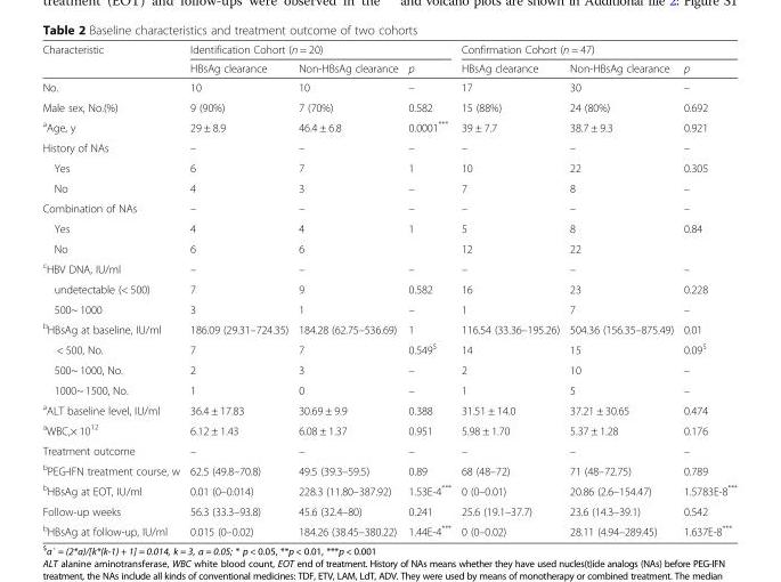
<table><thead><tr><td rowspan="2">Characteristic</td><td colspan="3">Identification Cohort (n = 20)</td><td colspan="3">Confirmation Cohort (n = 47)</td></tr><tr><td>HBsAg clearance</td><td>Non-HBsAg clearance</td><td>p</td><td>HBsAg clearance</td><td>Non-HBsAg clearance</td><td>p</td></tr></thead><tbody><tr><td>No.</td><td>10</td><td>10</td><td>–</td><td>17</td><td>30</td><td>–</td></tr><tr><td>Male sex, No.(%)</td><td>9 (90%)</td><td>7 (70%)</td><td>0.582</td><td>15 (88%)</td><td>24 (80%)</td><td>0.692</td></tr><tr><td><sup>a</sup>Age, y</td><td>29 ± 8.9</td><td>46.4 ± 6.8</td><td>0.0001***</td><td>39 ± 7.7</td><td>38.7 ± 9.3</td><td>0.921</td></tr><tr><td>History of NAs</td><td>–</td><td>–</td><td>–</td><td>–</td><td>–</td><td>–</td></tr><tr><td>Yes</td><td>6</td><td>7</td><td>1</td><td>10</td><td>22</td><td>0.305</td></tr><tr><td>No</td><td>4</td><td>3</td><td>–</td><td>7</td><td>8</td><td>–</td></tr><tr><td>Combination of NAs</td><td>–</td><td>–</td><td>–</td><td>–</td><td>–</td><td>–</td></tr><tr><td>Yes</td><td>4</td><td>4</td><td>1</td><td>5</td><td>8</td><td>0.84</td></tr><tr><td>No</td><td>6</td><td>6</td><td></td><td>12</td><td>22</td><td></td></tr><tr><td><sup>c</sup>HBV DNA, IU/ml</td><td>–</td><td>–</td><td>–</td><td>–</td><td>–</td><td>–</td></tr><tr><td>undetectable (&lt; 500)</td><td>7</td><td>9</td><td>0.582</td><td>16</td><td>23</td><td>0.228</td></tr><tr><td>500~ 1000</td><td>3</td><td>1</td><td>–</td><td>1</td><td>7</td><td>–</td></tr><tr><td><sup>b</sup>HBsAg at baseline, IU/ml</td><td>186.09 (29.31–724.35)</td><td>184.28 (62.75–536.69)</td><td>1</td><td>116.54 (33.36–195.26)</td><td>504.36 (156.35–875.49)</td><td>0.01</td></tr><tr><td>&lt; 500, No.</td><td>7</td><td>7</td><td>0.549<sup>$</sup></td><td>14</td><td>15</td><td>0.09<sup>$</sup></td></tr><tr><td>500~ 1000, No.</td><td>2</td><td>3</td><td>–</td><td>2</td><td>10</td><td>–</td></tr><tr><td>1000~ 1500, No.</td><td>1</td><td>0</td><td>–</td><td>1</td><td>5</td><td>–</td></tr><tr><td><sup>a</sup>ALT baseline level, IU/ml</td><td>36.4 ± 17.83</td><td>30.69 ± 9.9</td><td>0.388</td><td>31.51 ± 14.0</td><td>37.21 ± 30.65</td><td>0.474</td></tr><tr><td><sup>a</sup>WBC,× 10<sup>12</sup></td><td>6.12 ± 1.43</td><td>6.08 ± 1.37</td><td>0.951</td><td>5.98 ± 1.70</td><td>5.37 ± 1.28</td><td>0.176</td></tr><tr><td>Treatment outcome</td><td>–</td><td>–</td><td>–</td><td>–</td><td>–</td><td>–</td></tr><tr><td><sup>b</sup>PEG-IFN treatment course, w</td><td>62.5 (49.8–70.8)</td><td>49.5 (39.3–59.5)</td><td>0.89</td><td>68 (48–72)</td><td>71 (48–72.75)</td><td>0.789</td></tr><tr><td><sup>b</sup>HBsAg at EOT, IU/ml</td><td>0.01 (0–0.014)</td><td>228.3 (11.80–387.92)</td><td>1.53E-4***</td><td>0 (0–0.01)</td><td>20.86 (2.6–154.47)</td><td>1.5783E-8***</td></tr><tr><td>Follow-up weeks</td><td>56.3 (33.3–93.8)</td><td>45.6 (32.4–80)</td><td>0.241</td><td>25.6 (19.1–37.7)</td><td>23.6 (14.3–39.1)</td><td>0.542</td></tr><tr><td><sup>b</sup>HBsAg at follow-up, IU/ml</td><td>0.015 (0–0.02)</td><td>184.26 (38.45–380.22)</td><td>1.44E-4***</td><td>0 (0–0.02)</td><td>28.11 (4.94–289.45)</td><td>1.637E-8***</td></tr></tbody></table>